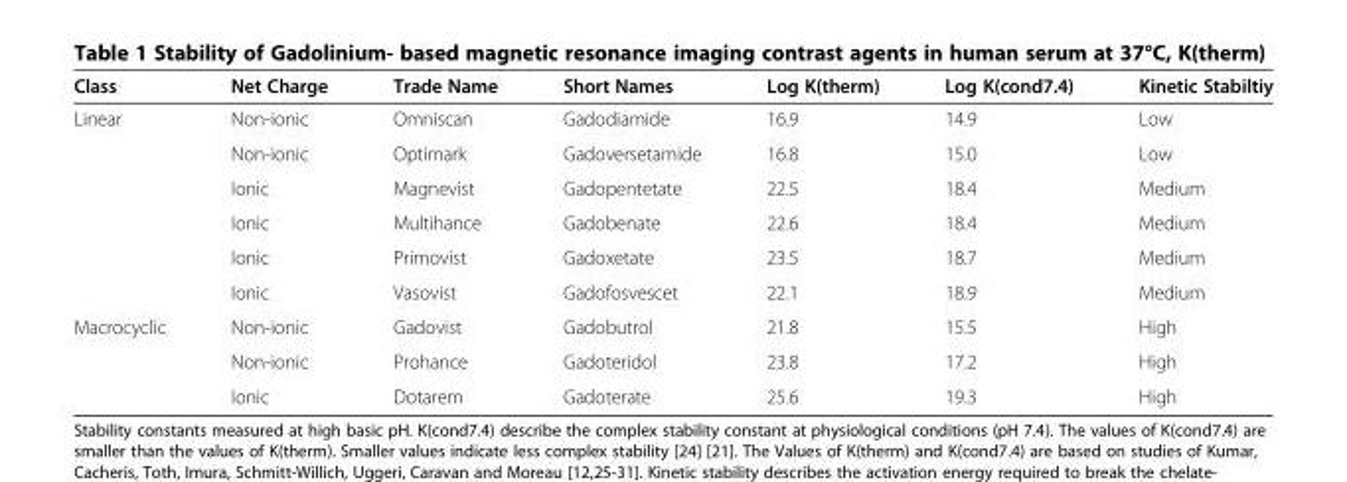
<table><thead><tr><td>Class</td><td>Net Charge</td><td>Trade Name</td><td>Short Names</td><td>Log K(therm)</td><td>Log K(cond7.4)</td><td>Kinetic Stabiltiy</td></tr></thead><tbody><tr><td rowspan="6">Linear</td><td>Non-ionic</td><td>Omniscan</td><td>Gadodiamide</td><td>16.9</td><td>14.9</td><td>Low</td></tr><tr><td>Non-ionic</td><td>Optimark</td><td>Gadoversetamide</td><td>16.8</td><td>15.0</td><td>Low</td></tr><tr><td>Ionic</td><td>Magnevist</td><td>Gadopentetate</td><td>22.5</td><td>18.4</td><td>Medium</td></tr><tr><td>Ionic</td><td>Multihance</td><td>Gadobenate</td><td>22.6</td><td>18.4</td><td>Medium</td></tr><tr><td>Ionic</td><td>Primovist</td><td>Gadoxetate</td><td>23.5</td><td>18.7</td><td>Medium</td></tr><tr><td>Ionic</td><td>Vasovist</td><td>Gadofosvescet</td><td>22.1</td><td>18.9</td><td>Medium</td></tr><tr><td rowspan="3">Macrocyclic</td><td>Non-ionic</td><td>Gadovist</td><td>Gadobutrol</td><td>21.8</td><td>15.5</td><td>High</td></tr><tr><td>Non-ionic</td><td>Prohance</td><td>Gadoteridol</td><td>23.8</td><td>17.2</td><td>High</td></tr><tr><td>Ionic</td><td>Dotarem</td><td>Gadoterate</td><td>25.6</td><td>19.3</td><td>High</td></tr></tbody></table>